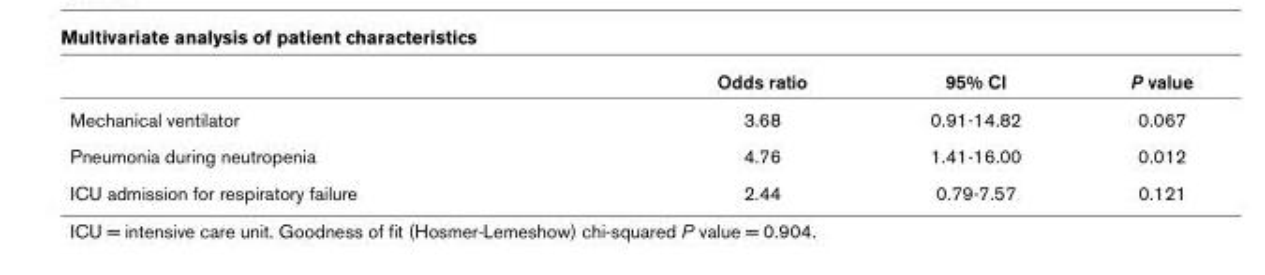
<table><thead><tr><td></td><td>Odds ratio</td><td>95% CI</td><td>P value</td></tr></thead><tbody><tr><td>Mechanical ventilator</td><td>3.68</td><td>0.91-14.82</td><td>0.067</td></tr><tr><td>Pneumonia during neutropenia</td><td>4.76</td><td>1.41-16.00</td><td>0.012</td></tr><tr><td>ICU admission for respiratory failure</td><td>2.44</td><td>0.79-7.57</td><td>0.121</td></tr></tbody></table>